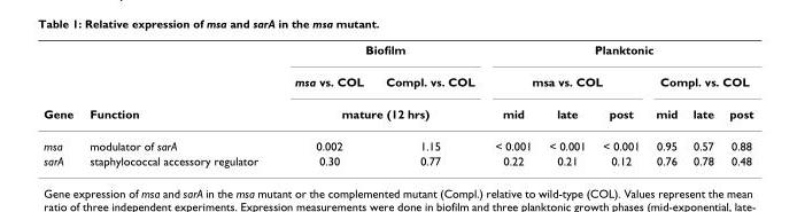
<table><thead><tr><td rowspan="3">Gene</td><td rowspan="3">Function</td><td colspan="2">Biofilm</td><td colspan="6">Planktonic</td></tr><tr><td>msa vs. COL</td><td>Compl. vs. COL</td><td colspan="3">msa vs. COL</td><td colspan="3">Compl. vs. COL</td></tr><tr><td colspan="2">mature (12 hrs)</td><td>mid</td><td>late</td><td>post</td><td>mid</td><td>late</td><td>post</td></tr></thead><tbody><tr><td>msa</td><td>modulator of sarA</td><td>0.002</td><td>1.15</td><td>&lt; 0.001</td><td>&lt; 0.001</td><td>&lt; 0.001</td><td>0.95</td><td>0.57</td><td>0.88</td></tr><tr><td>sarA</td><td>staphylococcal accessory regulator</td><td>0.30</td><td>0.77</td><td>0.22</td><td>0.21</td><td>0.12</td><td>0.76</td><td>0.78</td><td>0.48</td></tr></tbody></table>